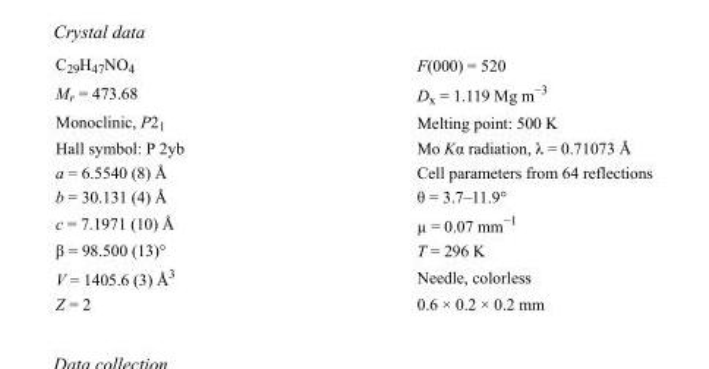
<table><tbody><tr><td>C<sub>29</sub>H<sub>47</sub>NO<sub>4</sub></td><td>F(000) = 520</td></tr><tr><td>M<sub>r</sub> = 473.68</td><td>D<sub>x</sub> = 1.119 Mg m<sup>−3</sup></td></tr><tr><td>Monoclinic, P2<sub>1</sub></td><td>Melting point: 500 K</td></tr><tr><td>Hall symbol: P 2yb</td><td>Mo Kα radiation, λ = 0.71073 Å</td></tr><tr><td>a = 6.5540 (8) Å</td><td>Cell parameters from 64 reflections</td></tr><tr><td>b = 30.131 (4) Å</td><td>θ = 3.7–11.9°</td></tr><tr><td>c = 7.1971 (10) Å</td><td>µ = 0.07 mm<sup>−1</sup></td></tr><tr><td>β = 98.500 (13)°</td><td>T = 296 K</td></tr><tr><td>V = 1405.6 (3) Å<sup>3</sup></td><td>Needle, colorless</td></tr><tr><td>Z = 2</td><td>0.6 × 0.2 × 0.2 mm</td></tr></tbody></table>